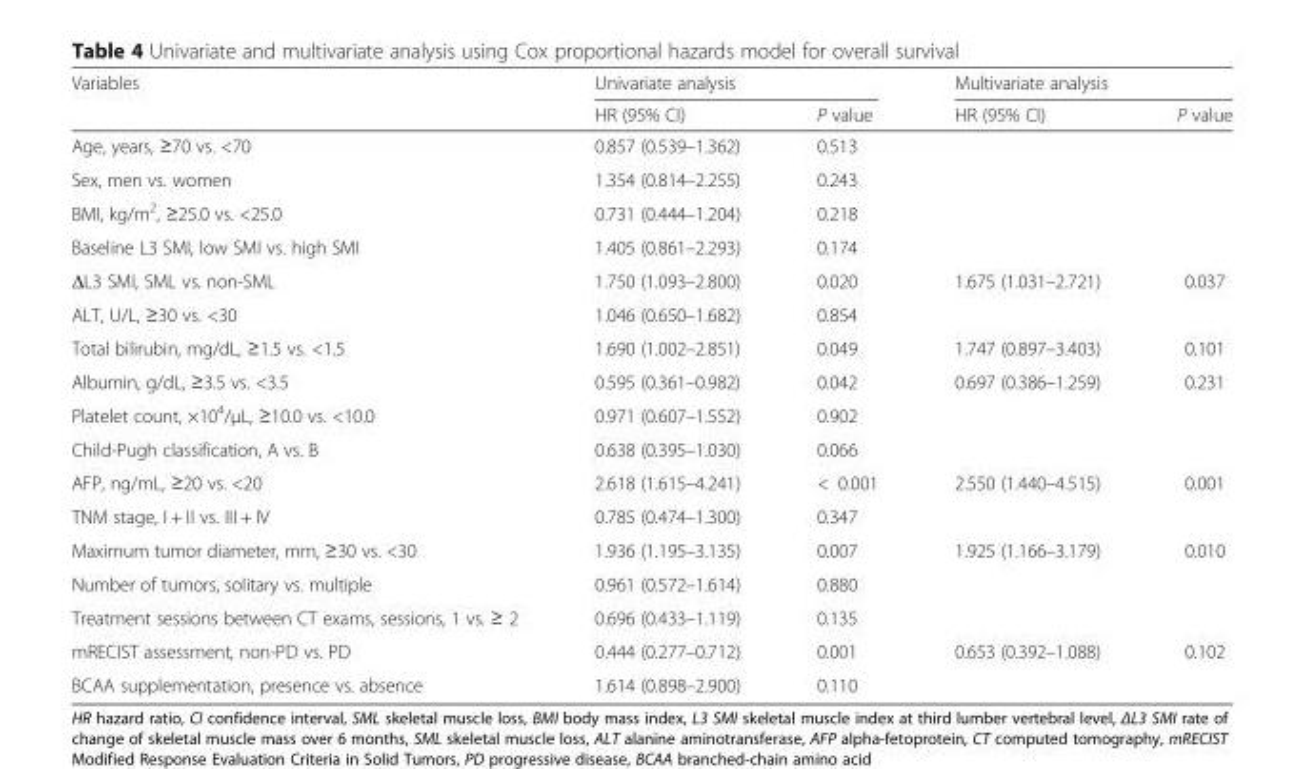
<table><thead><tr><td rowspan="2">Variables</td><td colspan="2">Univariate analysis</td><td colspan="2">Multivariate analysis</td></tr><tr><td>HR (95% CI)</td><td>P value</td><td>HR (95% CI)</td><td>P value</td></tr></thead><tbody><tr><td>Age, years, ≥70 vs. &lt;70</td><td>0.857 (0.539–1.362)</td><td>0.513</td><td></td><td></td></tr><tr><td>Sex, men vs. women</td><td>1.354 (0.814–2.255)</td><td>0.243</td><td></td><td></td></tr><tr><td>BMI, kg/m<sup>2</sup>, ≥25.0 vs. &lt;25.0</td><td>0.731 (0.444–1.204)</td><td>0.218</td><td></td><td></td></tr><tr><td>Baseline L3 SMI, low SMI vs. high SMI</td><td>1.405 (0.861–2.293)</td><td>0.174</td><td></td><td></td></tr><tr><td>ΔL3 SMI, SML vs. non-SML</td><td>1.750 (1.093–2.800)</td><td>0.020</td><td>1.675 (1.031–2.721)</td><td>0.037</td></tr><tr><td>ALT, U/L, ≥30 vs. &lt;30</td><td>1.046 (0.650–1.682)</td><td>0.854</td><td></td><td></td></tr><tr><td>Total bilirubin, mg/dL, ≥1.5 vs. &lt;1.5</td><td>1.690 (1.002–2.851)</td><td>0.049</td><td>1.747 (0.897–3.403)</td><td>0.101</td></tr><tr><td>Albumin, g/dL, ≥3.5 vs. &lt;3.5</td><td>0.595 (0.361–0.982)</td><td>0.042</td><td>0.697 (0.386–1.259)</td><td>0.231</td></tr><tr><td>Platelet count, ×10<sup>4</sup>/μL, ≥10.0 vs. &lt;10.0</td><td>0.971 (0.607–1.552)</td><td>0.902</td><td></td><td></td></tr><tr><td>Child-Pugh classification, A vs. B</td><td>0.638 (0.395–1.030)</td><td>0.066</td><td></td><td></td></tr><tr><td>AFP, ng/mL, ≥20 vs. &lt;20</td><td>2.618 (1.615–4.241)</td><td>&lt; 0.001</td><td>2.550 (1.440–4.515)</td><td>0.001</td></tr><tr><td>TNM stage, I + II vs. III + IV</td><td>0.785 (0.474–1.300)</td><td>0.347</td><td></td><td></td></tr><tr><td>Maximum tumor diameter, mm, ≥30 vs. &lt;30</td><td>1.936 (1.195–3.135)</td><td>0.007</td><td>1.925 (1.166–3.179)</td><td>0.010</td></tr><tr><td>Number of tumors, solitary vs. multiple</td><td>0.961 (0.572–1.614)</td><td>0.880</td><td></td><td></td></tr><tr><td>Treatment sessions between CT exams, sessions, 1 vs. ≥ 2</td><td>0.696 (0.433–1.119)</td><td>0.135</td><td></td><td></td></tr><tr><td>mRECIST assessment, non-PD vs. PD</td><td>0.444 (0.277–0.712)</td><td>0.001</td><td>0.653 (0.392–1.088)</td><td>0.102</td></tr><tr><td>BCAA supplementation, presence vs. absence</td><td>1.614 (0.898–2.900)</td><td>0.110</td><td></td><td></td></tr></tbody></table>